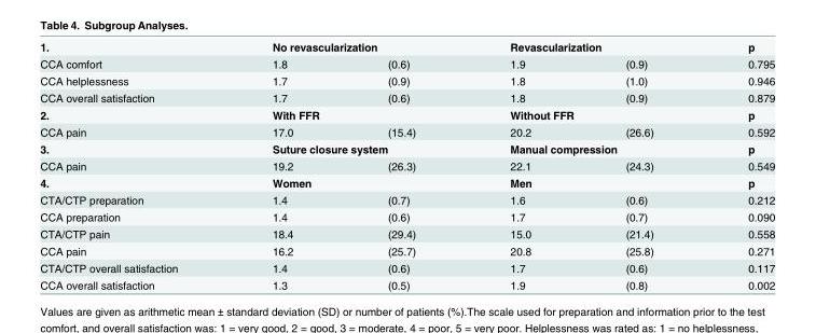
<table><tbody><tr><td>1.</td><td colspan="2">No revascularization</td><td colspan="2">Revascularization</td><td>p</td></tr><tr><td>CCA comfort</td><td>1.8</td><td>(0.6)</td><td>1.9</td><td>(0.9)</td><td>0.795</td></tr><tr><td>CCA helplessness</td><td>1.7</td><td>(0.9)</td><td>1.8</td><td>(1.0)</td><td>0.946</td></tr><tr><td>CCA overall satisfaction</td><td>1.7</td><td>(0.6)</td><td>1.8</td><td>(0.9)</td><td>0.879</td></tr><tr><td>2.</td><td colspan="2">With FFR</td><td colspan="2">Without FFR</td><td>p</td></tr><tr><td>CCA pain</td><td>17.0</td><td>(15.4)</td><td>20.2</td><td>(26.6)</td><td>0.592</td></tr><tr><td>3.</td><td colspan="2">Suture closure system</td><td colspan="2">Manual compression</td><td>p</td></tr><tr><td>CCA pain</td><td>19.2</td><td>(26.3)</td><td>22.1</td><td>(24.3)</td><td>0.549</td></tr><tr><td>4.</td><td colspan="2">Women</td><td colspan="2">Men</td><td>p</td></tr><tr><td>CTA/CTP preparation</td><td>1.4</td><td>(0.7)</td><td>1.6</td><td>(0.6)</td><td>0.212</td></tr><tr><td>CCA preparation</td><td>1.4</td><td>(0.6)</td><td>1.7</td><td>(0.7)</td><td>0.090</td></tr><tr><td>CTA/CTP pain</td><td>18.4</td><td>(29.4)</td><td>15.0</td><td>(21.4)</td><td>0.558</td></tr><tr><td>CCA pain</td><td>16.2</td><td>(25.7)</td><td>20.8</td><td>(25.8)</td><td>0.271</td></tr><tr><td>CTA/CTP overall satisfaction</td><td>1.4</td><td>(0.6)</td><td>1.7</td><td>(0.6)</td><td>0.117</td></tr><tr><td>CCA overall satisfaction</td><td>1.3</td><td>(0.5)</td><td>1.9</td><td>(0.8)</td><td>0.002</td></tr></tbody></table>